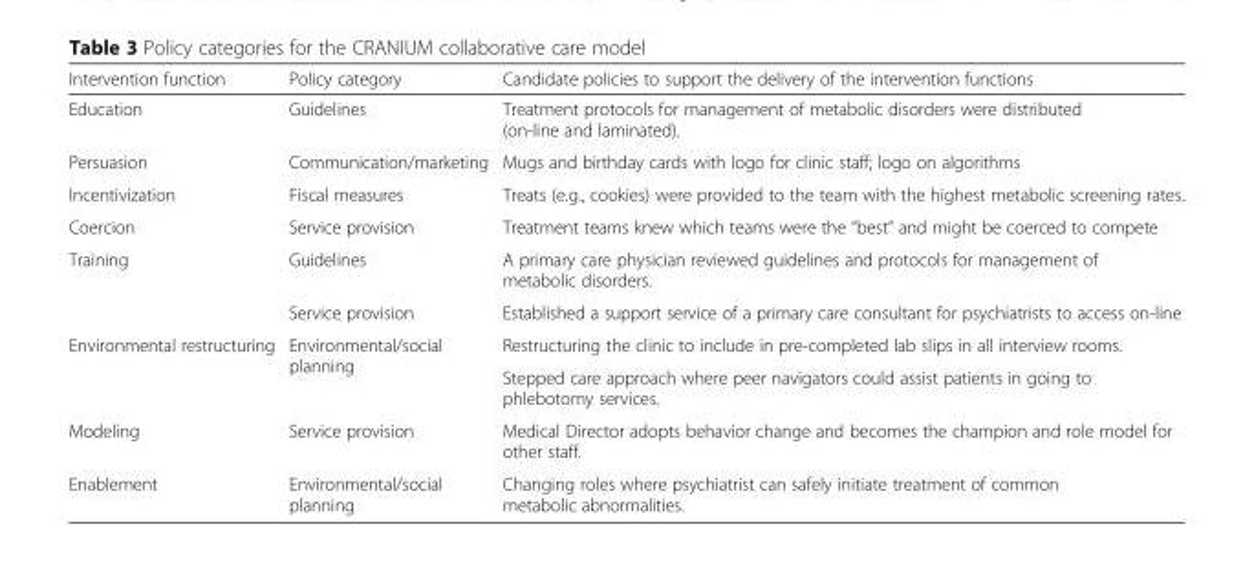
<table><thead><tr><td>Intervention function</td><td>Policy category</td><td>Candidate policies to support the delivery of the intervention functions</td></tr></thead><tbody><tr><td>Education</td><td>Guidelines</td><td>Treatment protocols for management of metabolic disorders were distributed (on-line and laminated).</td></tr><tr><td>Persuasion</td><td>Communication/marketing</td><td>Mugs and birthday cards with logo for clinic staff; logo on algorithms</td></tr><tr><td>Incentivization</td><td>Fiscal measures</td><td>Treats (e.g., cookies) were provided to the team with the highest metabolic screening rates.</td></tr><tr><td>Coercion</td><td>Service provision</td><td>Treatment teams knew which teams were the “best” and might be coerced to compete</td></tr><tr><td rowspan="2">Training</td><td>Guidelines</td><td>A primary care physician reviewed guidelines and protocols for management of metabolic disorders.</td></tr><tr><td>Service provision</td><td>Established a support service of a primary care consultant for psychiatrists to access on-line</td></tr><tr><td rowspan="2">Environmental restructuring</td><td rowspan="2">Environmental/social planning</td><td>Restructuring the clinic to include in pre-completed lab slips in all interview rooms.</td></tr><tr><td>Stepped care approach where peer navigators could assist patients in going to phlebotomy services.</td></tr><tr><td>Modeling</td><td>Service provision</td><td>Medical Director adopts behavior change and becomes the champion and role model for other staff.</td></tr><tr><td>Enablement</td><td>Environmental/social planning</td><td>Changing roles where psychiatrist can safely initiate treatment of common metabolic abnormalities.</td></tr></tbody></table>